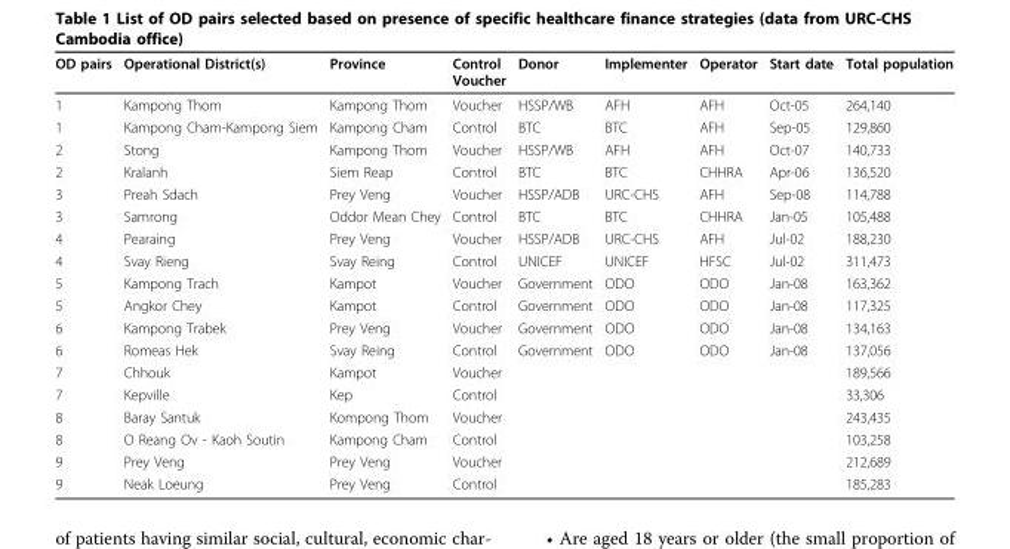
<table><thead><tr><td>OD pairs</td><td>Operational District(s)</td><td>Province</td><td>Control Voucher</td><td>Donor</td><td>Implementer</td><td>Operator</td><td>Start date</td><td>Total population</td></tr></thead><tbody><tr><td>1</td><td>Kampong Thom</td><td>Kampong Thom</td><td>Voucher</td><td>HSSP/WB</td><td>AFH</td><td>AFH</td><td>Oct-05</td><td>264,140</td></tr><tr><td>1</td><td>Kampong Cham-Kampong Siem</td><td>Kampong Cham</td><td>Control</td><td>BTC</td><td>BTC</td><td>AFH</td><td>Sep-05</td><td>129,860</td></tr><tr><td>2</td><td>Stong</td><td>Kampong Thom</td><td>Voucher</td><td>HSSP/WB</td><td>AFH</td><td>AFH</td><td>Oct-07</td><td>140,733</td></tr><tr><td>2</td><td>Kralanh</td><td>Siem Reap</td><td>Control</td><td>BTC</td><td>BTC</td><td>CHHRA</td><td>Apr-06</td><td>136,520</td></tr><tr><td>3</td><td>Preah Sdach</td><td>Prey Veng</td><td>Voucher</td><td>HSSP/ADB</td><td>URC-CHS</td><td>AFH</td><td>Sep-08</td><td>114,788</td></tr><tr><td>3</td><td>Samrong</td><td>Oddor Mean Chey</td><td>Control</td><td>BTC</td><td>BTC</td><td>CHHRA</td><td>Jan-05</td><td>105,488</td></tr><tr><td>4</td><td>Pearaing</td><td>Prey Veng</td><td>Voucher</td><td>HSSP/ADB</td><td>URC-CHS</td><td>AFH</td><td>Jul-02</td><td>188,230</td></tr><tr><td>4</td><td>Svay Rieng</td><td>Svay Reing</td><td>Control</td><td>UNICEF</td><td>UNICEF</td><td>HFSC</td><td>Jul-02</td><td>311,473</td></tr><tr><td>5</td><td>Kampong Trach</td><td>Kampot</td><td>Voucher</td><td>Government</td><td>ODO</td><td>ODO</td><td>Jan-08</td><td>163,362</td></tr><tr><td>5</td><td>Angkor Chey</td><td>Kampot</td><td>Control</td><td>Government</td><td>ODO</td><td>ODO</td><td>Jan-08</td><td>117,325</td></tr><tr><td>6</td><td>Kampong Trabek</td><td>Prey Veng</td><td>Voucher</td><td>Government</td><td>ODO</td><td>ODO</td><td>Jan-08</td><td>134,163</td></tr><tr><td>6</td><td>Romeas Hek</td><td>Svay Reing</td><td>Control</td><td>Government</td><td>ODO</td><td>ODO</td><td>Jan-08</td><td>137,056</td></tr><tr><td>7</td><td>Chhouk</td><td>Kampot</td><td>Voucher</td><td></td><td></td><td></td><td></td><td>189,566</td></tr><tr><td>7</td><td>Kepville</td><td>Kep</td><td>Control</td><td></td><td></td><td></td><td></td><td>33,306</td></tr><tr><td>8</td><td>Baray Santuk</td><td>Kompong Thom</td><td>Voucher</td><td></td><td></td><td></td><td></td><td>243,435</td></tr><tr><td>8</td><td>O Reang Ov - Kaoh Soutin</td><td>Kampong Cham</td><td>Control</td><td></td><td></td><td></td><td></td><td>103,258</td></tr><tr><td>9</td><td>Prey Veng</td><td>Prey Veng</td><td>Voucher</td><td></td><td></td><td></td><td></td><td>212,689</td></tr><tr><td>9</td><td>Neak Loeung</td><td>Prey Veng</td><td>Control</td><td></td><td></td><td></td><td></td><td>185,283</td></tr></tbody></table>